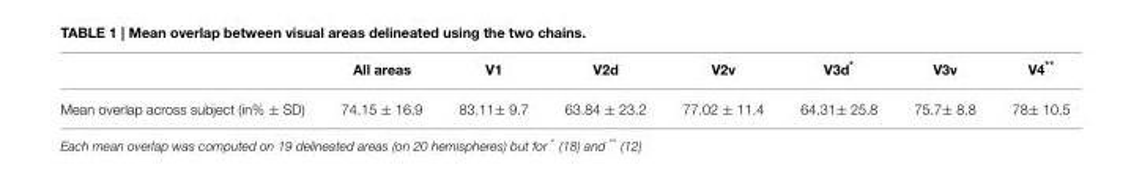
<table><thead><tr><td></td><td>All areas</td><td>V1</td><td>V2d</td><td>V2v</td><td>V3d*</td><td>V3v</td><td>V4**</td></tr></thead><tbody><tr><td>Mean overlap across subject (in% ± SD)</td><td>74.15 ± 16.9</td><td>83.11± 9.7</td><td>63.84 ± 23.2</td><td>77.02 ± 11.4</td><td>64.31± 25.8</td><td>75.7± 8.8</td><td>78± 10.5</td></tr></tbody></table>